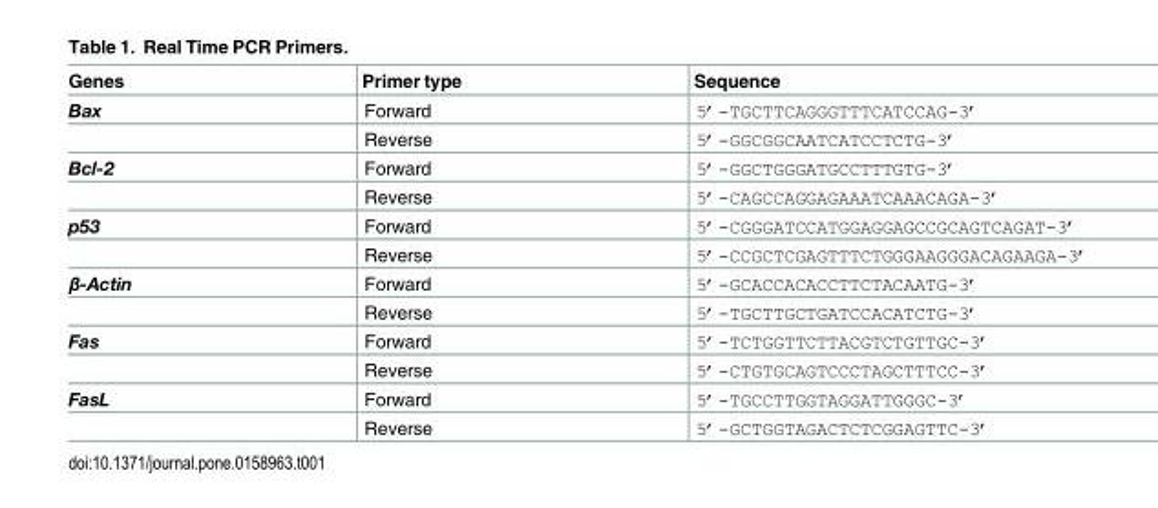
<table><thead><tr><td>Genes</td><td>Primer type</td><td>Sequence</td></tr></thead><tbody><tr><td rowspan="2">Bax</td><td>Forward</td><td>5’-TGCTTCAGGGTTTCATCCAG-3’</td></tr><tr><td>Reverse</td><td>5’-GGCGGCAATCATCCTCTG-3’</td></tr><tr><td rowspan="2">Bcl-2</td><td>Forward</td><td>5’-GGCTGGGATGCCTTTGTG-3’</td></tr><tr><td>Reverse</td><td>5’-CAGCCAGGAGAAATCAAACAGA-3’</td></tr><tr><td rowspan="2">p53</td><td>Forward</td><td>5’-CGGGATCCATGGAGGAGCCGCAGTCAGAT-3’</td></tr><tr><td>Reverse</td><td>5’-CCGCTCGAGTTTCTGGGAAGGGACAGAAGA-3’</td></tr><tr><td rowspan="2">β-Actin</td><td>Forward</td><td>5’-GCACCACACCTTCTACAATG-3’</td></tr><tr><td>Reverse</td><td>5’-TGCTTGCTGATCCACATCTG-3’</td></tr><tr><td rowspan="2">Fas</td><td>Forward</td><td>5’-TCTGGTTCTTACGTCTGTTGC-3’</td></tr><tr><td>Reverse</td><td>5’-CTGTGCAGTCCCTAGCTTTCC-3’</td></tr><tr><td rowspan="2">FasL</td><td>Forward</td><td>5’-TGCCTTGGTAGGATTGGGC-3’</td></tr><tr><td>Reverse</td><td>5’-GCTGGTAGACTCTCGGAGTTC-3’</td></tr></tbody></table>